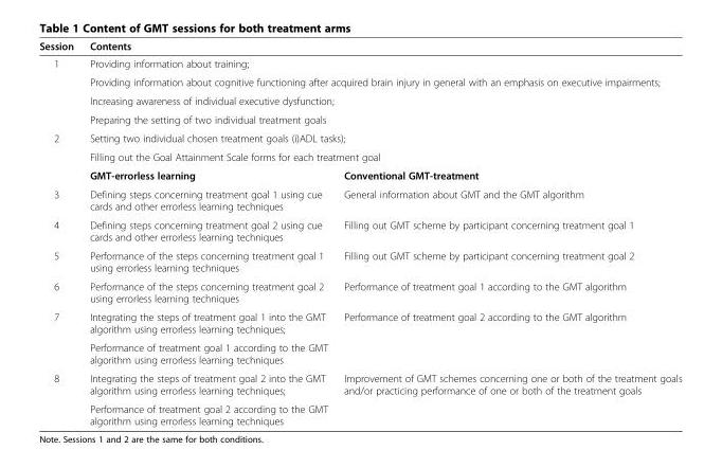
<table><thead><tr><td>Session</td><td colspan="2">Contents</td></tr></thead><tbody><tr><td rowspan="4">1</td><td colspan="2">Providing information about training;</td></tr><tr><td colspan="2">Providing information about cognitive functioning after acquired brain injury in general with an emphasis on executive impairments;</td></tr><tr><td colspan="2">Increasing awareness of individual executive dysfunction;</td></tr><tr><td colspan="2">Preparing the setting of two individual treatment goals</td></tr><tr><td rowspan="3">2</td><td colspan="2">Setting two individual chosen treatment goals (i)ADL tasks);</td></tr><tr><td colspan="2">Filling out the Goal Attainment Scale forms for each treatment goal</td></tr><tr><td>GMT-errorless learning</td><td>Conventional GMT-treatment</td></tr><tr><td>3</td><td>Defining steps concerning treatment goal 1 using cue cards and other errorless learning techniques</td><td>General information about GMT and the GMT algorithm</td></tr><tr><td>4</td><td>Defining steps concerning treatment goal 2 using cue cards and other errorless learning techniques</td><td>Filling out GMT scheme by participant concerning treatment goal 1</td></tr><tr><td>5</td><td>Performance of the steps concerning treatment goal 1 using errorless learning techniques</td><td>Filling out GMT scheme by participant concerning treatment goal 2</td></tr><tr><td>6</td><td>Performance of the steps concerning treatment goal 2 using errorless learning techniques</td><td>Performance of treatment goal 1 according to the GMT algorithm</td></tr><tr><td rowspan="2">7</td><td>Integrating the steps of treatment goal 1 into the GMT algorithm using errorless learning techniques;</td><td rowspan="2">Performance of treatment goal 2 according to the GMT algorithm</td></tr><tr><td>Performance of treatment goal 1 according to the GMT algorithm using errorless learning techniques</td></tr><tr><td rowspan="2">8</td><td>Integrating the steps of treatment goal 2 into the GMT algorithm using errorless learning techniques;</td><td>Improvement of GMT schemes concerning one or both of the treatment goals and/or practicing performance of one or both of the treatment goals</td></tr><tr><td>Performance of treatment goal 2 according to the GMT algorithm using errorless learning techniques</td><td></td></tr></tbody></table>